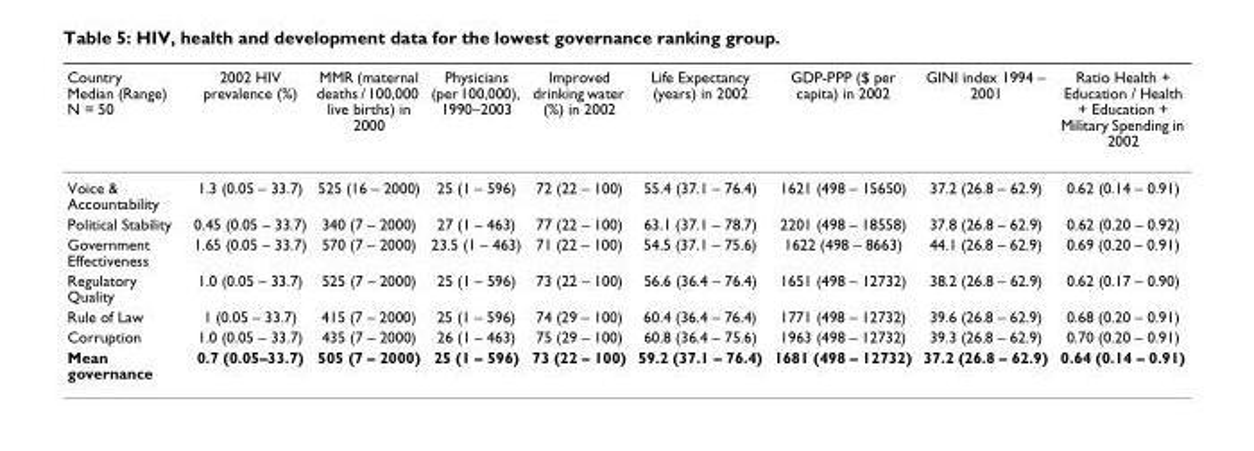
<table><thead><tr><td>Country Median (Range) N = 50</td><td>2002 HIV prevalence (%)</td><td>MMR (maternal deaths / 100,000 live births) in 2000</td><td>Physicians (per 100,000), 1990–2003</td><td>Improved drinking water (%) in 2002</td><td>Life Expectancy (years) in 2002</td><td>GDP-PPP ($ per capita) in 2002</td><td>GINI index 1994 – 2001</td><td>Ratio Health + Education / Health + Education + Military Spending in 2002</td></tr></thead><tbody><tr><td>Voice &amp; Accountability</td><td>1.3 (0.05 – 33.7)</td><td>525 (16 – 2000)</td><td>25 (1 – 596)</td><td>72 (22 – 100)</td><td>55.4 (37.1 – 76.4)</td><td>1621 (498 – 15650)</td><td>37.2 (26.8 – 62.9)</td><td>0.62 (0.14 – 0.91)</td></tr><tr><td>Political Stability</td><td>0.45 (0.05 – 33.7)</td><td>340 (7 – 2000)</td><td>27 (1 – 463)</td><td>77 (22 – 100)</td><td>63.1 (37.1 – 78.7)</td><td>2201 (498 – 18558)</td><td>37.8 (26.8 – 62.9)</td><td>0.62 (0.20 – 0.92)</td></tr><tr><td>Government Effectiveness</td><td>1.65 (0.05 – 33.7)</td><td>570 (7 – 2000)</td><td>23.5 (1 – 463)</td><td>71 (22 – 100)</td><td>54.5 (37.1 – 75.6)</td><td>1622 (498 – 8663)</td><td>44.1 (26.8 – 62.9)</td><td>0.69 (0.20 – 0.91)</td></tr><tr><td>Regulatory Quality</td><td>1.0 (0.05 – 33.7)</td><td>525 (7 – 2000)</td><td>25 (1 – 596)</td><td>73 (22 – 100)</td><td>56.6 (36.4 – 76.4)</td><td>1651 (498 – 12732)</td><td>38.2 (26.8 – 62.9)</td><td>0.62 (0.17 – 0.90)</td></tr><tr><td>Rule of Law</td><td>1 (0.05 – 33.7)</td><td>415 (7 – 2000)</td><td>25 (1 – 596)</td><td>74 (29 – 100)</td><td>60.4 (36.4 – 76.4)</td><td>1771 (498 – 12732)</td><td>39.6 (26.8 – 62.9)</td><td>0.68 (0.20 – 0.91)</td></tr><tr><td>Corruption</td><td>1.0 (0.05 – 33.7)</td><td>435 (7 – 2000)</td><td>26 (1 – 463)</td><td>75 (29 – 100)</td><td>60.8 (36.4 – 75.6)</td><td>1963 (498 – 12732)</td><td>39.3 (26.8 – 62.9)</td><td>0.70 (0.20 – 0.91)</td></tr><tr><td>Mean governance</td><td>0.7 (0.05–33.7)</td><td>505 (7 – 2000)</td><td>25 (1 – 596)</td><td>73 (22 – 100)</td><td>59.2 (37.1 – 76.4)</td><td>1681 (498 – 12732)</td><td>37.2 (26.8 – 62.9)</td><td>0.64 (0.14 – 0.91)</td></tr></tbody></table>